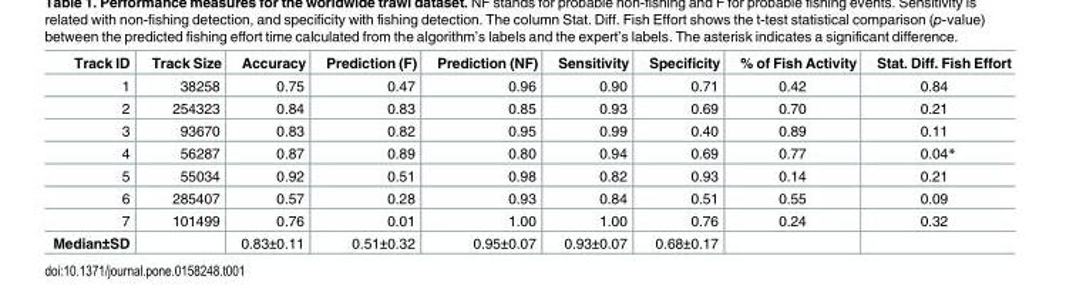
<table><thead><tr><td>Track ID</td><td>Track Size</td><td>Accuracy</td><td>Prediction (F)</td><td>Prediction (NF)</td><td>Sensitivity</td><td>Specificity</td><td>% of Fish Activity</td><td>Stat. Diff. Fish Effort</td></tr></thead><tbody><tr><td>1</td><td>38258</td><td>0.75</td><td>0.47</td><td>0.96</td><td>0.90</td><td>0.71</td><td>0.42</td><td>0.84</td></tr><tr><td>2</td><td>254323</td><td>0.84</td><td>0.83</td><td>0.85</td><td>0.93</td><td>0.69</td><td>0.70</td><td>0.21</td></tr><tr><td>3</td><td>93670</td><td>0.83</td><td>0.82</td><td>0.95</td><td>0.99</td><td>0.40</td><td>0.89</td><td>0.11</td></tr><tr><td>4</td><td>56287</td><td>0.87</td><td>0.89</td><td>0.80</td><td>0.94</td><td>0.69</td><td>0.77</td><td>0.04*</td></tr><tr><td>5</td><td>55034</td><td>0.92</td><td>0.51</td><td>0.98</td><td>0.82</td><td>0.93</td><td>0.14</td><td>0.21</td></tr><tr><td>6</td><td>285407</td><td>0.57</td><td>0.28</td><td>0.93</td><td>0.84</td><td>0.51</td><td>0.55</td><td>0.09</td></tr><tr><td>7</td><td>101499</td><td>0.76</td><td>0.01</td><td>1.00</td><td>1.00</td><td>0.76</td><td>0.24</td><td>0.32</td></tr><tr><td>Median±SD</td><td></td><td>0.83±0.11</td><td>0.51±0.32</td><td>0.95±0.07</td><td>0.93±0.07</td><td>0.68±0.17</td><td></td><td></td></tr></tbody></table>